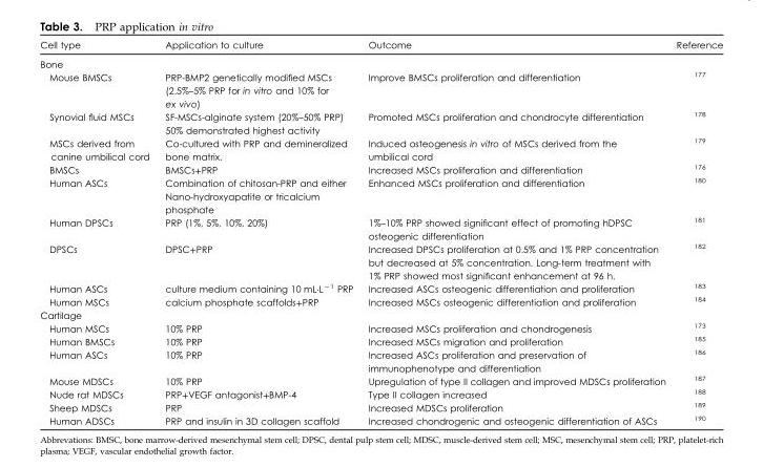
<table><thead><tr><td>Cell type</td><td>Application to culture</td><td>Outcome</td><td>Reference</td></tr></thead><tbody><tr><td colspan="4">Bone</td></tr><tr><td>Mouse BMSCs</td><td>PRP-BMP2 genetically modified MSCs (2.5%–5% PRP for in vitro and 10% for ex vivo)</td><td>Improve BMSCs proliferation and differentiation</td><td><sup>177</sup></td></tr><tr><td>Synovial fluid MSCs</td><td>SF-MSCs-alginate system (20%–50% PRP) 50% demonstrated highest activity</td><td>Promoted MSCs proliferation and chondrocyte differentiation</td><td><sup>178</sup></td></tr><tr><td>MSCs derived from canine umbilical cord</td><td>Co-cultured with PRP and demineralized bone matrix.</td><td>Induced osteogenesis in vitro of MSCs derived from the umbilical cord</td><td><sup>179</sup></td></tr><tr><td>BMSCs</td><td>BMSCs+PRP</td><td>Increased MSCs proliferation and differentiation</td><td><sup>176</sup></td></tr><tr><td>Human ASCs</td><td>Combination of chitosan-PRP and either Nano-hydroxyapatite or tricalcium phosphate</td><td>Enhanced MSCs proliferation and differentiation</td><td><sup>180</sup></td></tr><tr><td>Human DPSCs</td><td>PRP (1%, 5%, 10%, 20%)</td><td>1%–10% PRP showed significant effect of promoting hDPSC osteogenic differentiation</td><td><sup>181</sup></td></tr><tr><td>DPSCs</td><td>DPSC+PRP</td><td>Increased DPSCs proliferation at 0.5% and 1% PRP concentration but decreased at 5% concentration. Long-term treatment with 1% PRP showed most significant enhancement at 96 h.</td><td><sup>182</sup></td></tr><tr><td>Human ASCs</td><td>culture medium containing 10 mL·L <sup>− 1</sup> PRP</td><td>Increased ASCs osteogenic differentiation and proliferation</td><td><sup>183</sup></td></tr><tr><td>Human MSCs</td><td>calcium phosphate scaffolds+PRP</td><td>Increased MSCs osteogenic differentiation and proliferation</td><td><sup>184</sup></td></tr><tr><td colspan="4">Cartilage</td></tr><tr><td>Human MSCs</td><td>10% PRP</td><td>Increased MSCs proliferation and chondrogenesis</td><td><sup>173</sup></td></tr><tr><td>Human BMSCs</td><td>10% PRP</td><td>Increased MSCs migration and proliferation</td><td><sup>185</sup></td></tr><tr><td>Human ASCs</td><td>10% PRP</td><td>Increased ASCs proliferation and preservation of immunophenotype and differentiation</td><td><sup>186</sup></td></tr><tr><td>Mouse MDSCs</td><td>10% PRP</td><td>Upregulation of type II collagen and improved MDSCs proliferation</td><td><sup>187</sup></td></tr><tr><td>Nude rat MDSCs</td><td>PRP+VEGF antagonist+BMP-4</td><td>Type II collagen increased</td><td><sup>188</sup></td></tr><tr><td>Sheep MDSCs</td><td>PRP</td><td>Increased MDSCs proliferation</td><td><sup>189</sup></td></tr><tr><td>Human ADSCs</td><td>PRP and insulin in 3D collagen scaffold</td><td>Increased chondrogenic and osteogenic differentiation of ASCs</td><td><sup>190</sup></td></tr></tbody></table>